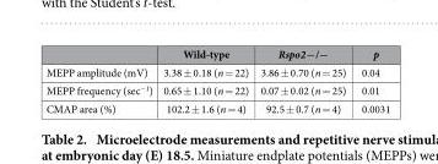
<table><thead><tr><td></td><td>Wild-type</td><td>Rspo2−/−</td><td>p</td></tr></thead><tbody><tr><td>MEPP amplitude (mV)</td><td>3.38 ± 0.18 (n = 22)</td><td>3.86 ± 0.70 (n = 25)</td><td>0.04</td></tr><tr><td>MEPP frequency (sec<sup>−1</sup>)</td><td>0.65 ± 1.10 (n = 22)</td><td>0.07 ± 0.02 (n = 25)</td><td>0.01</td></tr><tr><td>CMAP area (%)</td><td>102.2 ± 1.6 (n = 4)</td><td>92.5 ± 0.7 (n = 4)</td><td>0.0031</td></tr></tbody></table>